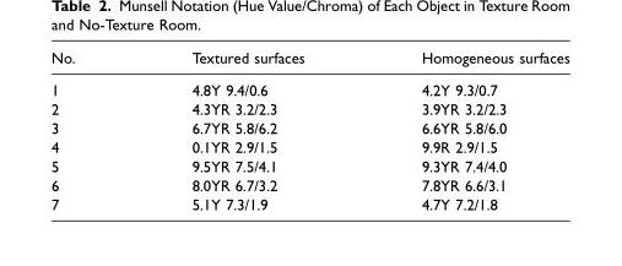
<table><thead><tr><td>No.</td><td>Textured surfaces</td><td>Homogeneous surfaces</td></tr></thead><tbody><tr><td>1</td><td>4.8Y 9.4/0.6</td><td>4.2Y 9.3/0.7</td></tr><tr><td>2</td><td>4.3YR 3.2/2.3</td><td>3.9YR 3.2/2.3</td></tr><tr><td>3</td><td>6.7YR 5.8/6.2</td><td>6.6YR 5.8/6.0</td></tr><tr><td>4</td><td>0.1YR 2.9/1.5</td><td>9.9R 2.9/1.5</td></tr><tr><td>5</td><td>9.5YR 7.5/4.1</td><td>9.3YR 7.4/4.0</td></tr><tr><td>6</td><td>8.0YR 6.7/3.2</td><td>7.8YR 6.6/3.1</td></tr><tr><td>7</td><td>5.1Y 7.3/1.9</td><td>4.7Y 7.2/1.8</td></tr></tbody></table>